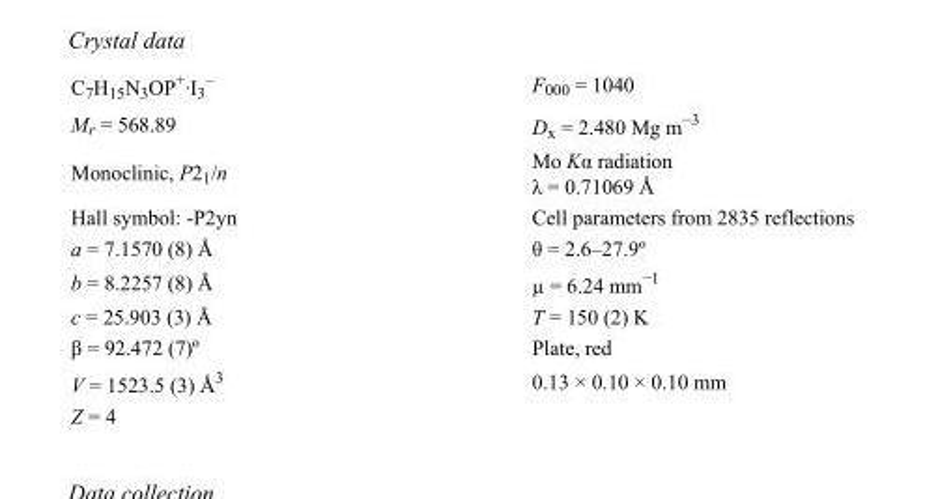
<table><tbody><tr><td>C<sub>7</sub>H<sub>15</sub>N<sub>3</sub>OP<sup>+</sup>·I<sub>3</sub> <sup>–</sup></td><td>F<sub>000</sub> = 1040</td></tr><tr><td>M<sub>r</sub> = 568.89</td><td>D<sub>x</sub> = 2.480 Mg m<sup>−3</sup></td></tr><tr><td>Monoclinic, P2<sub>1</sub>/n</td><td>Mo Kα radiation λ = 0.71069 Å</td></tr><tr><td>Hall symbol: -P2yn</td><td>Cell parameters from 2835 reflections</td></tr><tr><td>a = 7.1570 (8) Å</td><td>θ = 2.6–27.9º</td></tr><tr><td>b = 8.2257 (8) Å</td><td>µ = 6.24 mm<sup>−1</sup></td></tr><tr><td>c = 25.903 (3) Å</td><td>T = 150 (2) K</td></tr><tr><td>β = 92.472 (7)º</td><td>Plate, red</td></tr><tr><td>V = 1523.5 (3) Å<sup>3</sup></td><td>0.13 × 0.10 × 0.10 mm</td></tr><tr><td>Z = 4</td><td></td></tr></tbody></table>